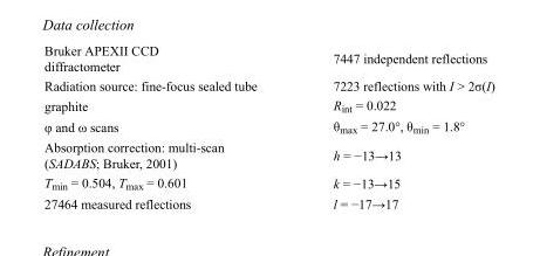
<table><tbody><tr><td>Bruker APEXII CCD diffractometer</td><td>7447 independent reflections</td></tr><tr><td>Radiation source: fine-focus sealed tube</td><td>7223 reflections with I &gt; 2σ(I)</td></tr><tr><td>graphite</td><td>R<sub>int</sub> = 0.022</td></tr><tr><td>φ and ω scans</td><td>θ<sub>max</sub> = 27.0°, θ<sub>min</sub> = 1.8°</td></tr><tr><td>Absorption correction: multi-scan (SADABS; Bruker, 2001)</td><td>h = −13→13</td></tr><tr><td>T<sub>min</sub> = 0.504, T<sub>max</sub> = 0.601</td><td>k = −13→15</td></tr><tr><td>27464 measured reflections</td><td>l = −17→17</td></tr></tbody></table>